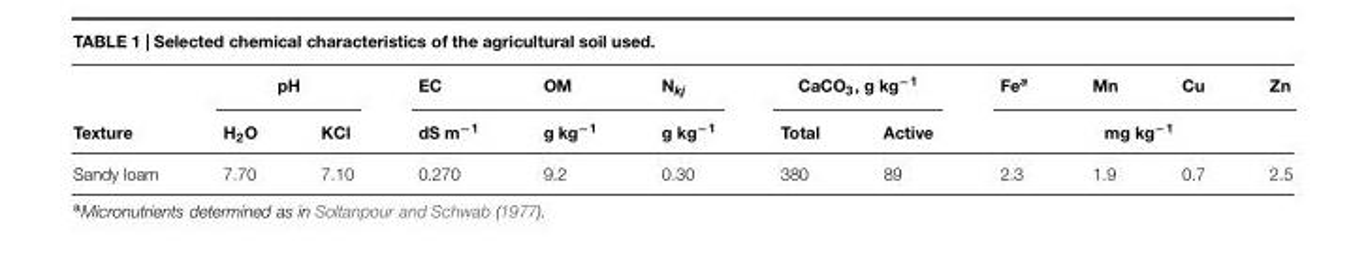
<table><thead><tr><td rowspan="2">Texture</td><td colspan="2">pH</td><td rowspan="2">EC dS m<sup>−1</sup></td><td rowspan="2">OM g kg<sup>−1</sup></td><td rowspan="2">N<sub>kj</sub> g kg<sup>−1</sup></td><td colspan="2">CaCO<sub>3</sub>, g kg<sup>−1</sup></td><td>Fe<sup>a</sup></td><td>Mn</td><td>Cu</td><td>Zn</td></tr><tr><td>H<sub>2</sub>O</td><td>KCl</td><td>Total</td><td>Active</td><td colspan="4">mg kg<sup>−1</sup></td></tr></thead><tbody><tr><td>Sandy loam</td><td>7.70</td><td>7.10</td><td>0.270</td><td>9.2</td><td>0.30</td><td>380</td><td>89</td><td>2.3</td><td>1.9</td><td>0.7</td><td>2.5</td></tr></tbody></table>